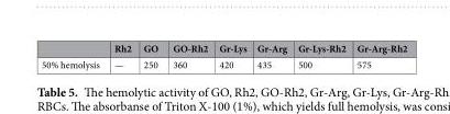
<table><thead><tr><td></td><td>Rh2</td><td>GO</td><td>GO-Rh2</td><td>Gr-Lys</td><td>Gr-Arg</td><td>Gr-Lys-Rh2</td><td>Gr-Arg-Rh2</td></tr></thead><tbody><tr><td>50% hemolysis</td><td>—</td><td>250</td><td>360</td><td>420</td><td>435</td><td>500</td><td>575</td></tr></tbody></table>